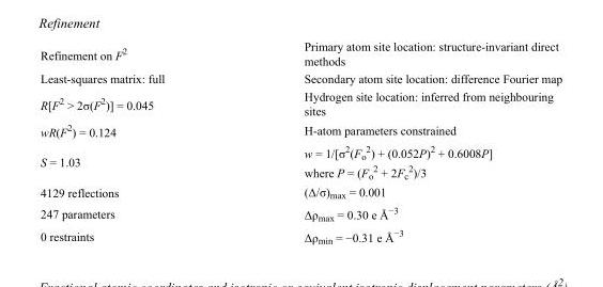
<table><tbody><tr><td>Refinement on F<sup>2</sup></td><td>Primary atom site location: structure-invariant direct methods</td></tr><tr><td>Least-squares matrix: full</td><td>Secondary atom site location: difference Fourier map</td></tr><tr><td>R[F<sup>2</sup> &gt; 2σ(F<sup>2</sup>)] = 0.045</td><td>Hydrogen site location: inferred from neighbouring sites</td></tr><tr><td>wR(F<sup>2</sup>) = 0.124</td><td>H-atom parameters constrained</td></tr><tr><td>S = 1.03</td><td>w = 1/[σ<sup>2</sup>(F<sub>o</sub> <sup>2</sup>) + (0.052P)<sup>2</sup> + 0.6008P] where P = (F<sub>o</sub> <sup>2</sup> + 2F<sub>c</sub> <sup>2</sup>)/3</td></tr><tr><td>4129 reflections</td><td>(Δ/σ)<sub>max</sub> = 0.001</td></tr><tr><td>247 parameters</td><td>Δρ<sub>max</sub> = 0.30 e Å<sup>−3</sup></td></tr><tr><td>0 restraints</td><td>Δρ<sub>min</sub> = −0.31 e Å<sup>−3</sup></td></tr></tbody></table>